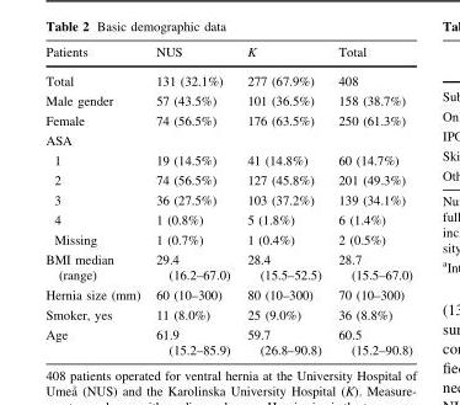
<table><thead><tr><td>Patients</td><td>NUS</td><td>K</td><td>Total</td></tr></thead><tbody><tr><td>Total</td><td>131 (32.1%)</td><td>277 (67.9%)</td><td>408</td></tr><tr><td>Male gender</td><td>57 (43.5%)</td><td>101 (36.5%)</td><td>158 (38.7%)</td></tr><tr><td>Female</td><td>74 (56.5%)</td><td>176 (63.5%)</td><td>250 (61.3%)</td></tr><tr><td colspan="4">ASA</td></tr><tr><td>1</td><td>19 (14.5%)</td><td>41 (14.8%)</td><td>60 (14.7%)</td></tr><tr><td>2</td><td>74 (56.5%)</td><td>127 (45.8%)</td><td>201 (49.3%)</td></tr><tr><td>3</td><td>36 (27.5%)</td><td>103 (37.2%)</td><td>139 (34.1%)</td></tr><tr><td>4</td><td>1 (0.8%)</td><td>5 (1.8%)</td><td>6 (1.4%)</td></tr><tr><td>Missing</td><td>1 (0.7%)</td><td>1 (0.4%)</td><td>2 (0.5%)</td></tr><tr><td>BMI median (range)</td><td>29.4 (16.2–67.0)</td><td>28.4 (15.5–52.5)</td><td>28.7 (15.5–67.0)</td></tr><tr><td>Hernia size (mm)</td><td>60 (10–300)</td><td>80 (10–300)</td><td>70 (10–300)</td></tr><tr><td>Smoker, yes</td><td>11 (8.0%)</td><td>25 (9.0%)</td><td>36 (8.8%)</td></tr><tr><td>Age</td><td>61.9 (15.2–85.9)</td><td>59.7 (26.8–90.8)</td><td>60.5 (15.2–90.8)</td></tr></tbody></table>